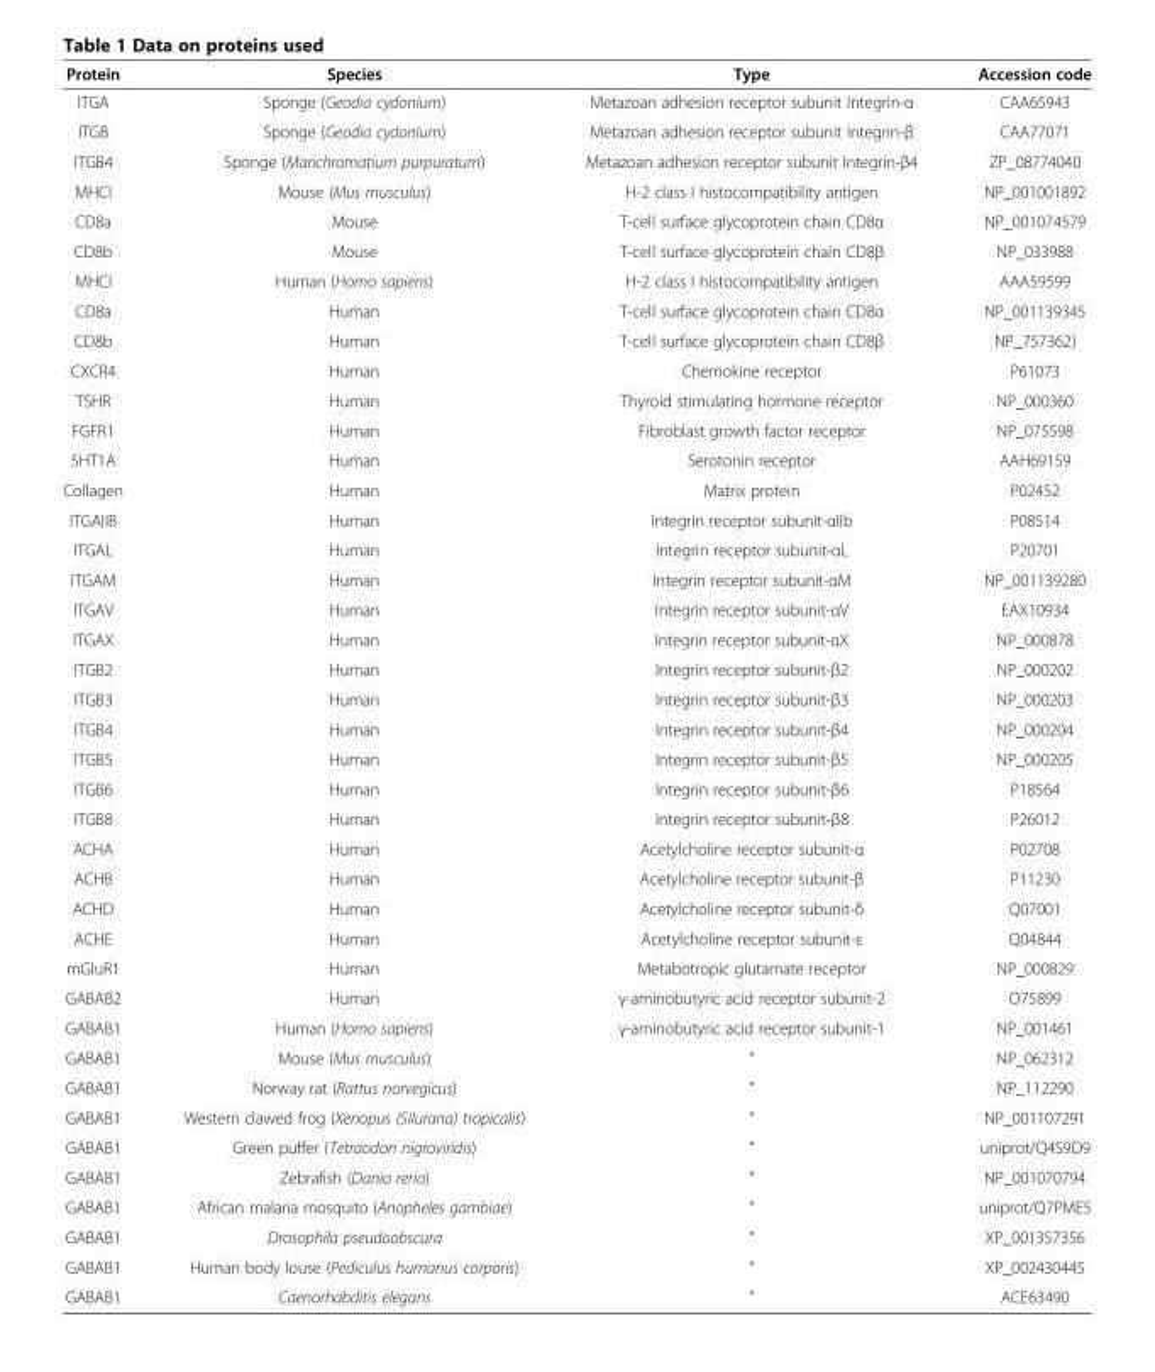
<table><thead><tr><td>Protein</td><td>Species</td><td>Type</td><td>Accession code</td></tr></thead><tbody><tr><td>ITGA</td><td>Sponge (Geodia cydonium)</td><td>Metazoan adhesion receptor subunit Integrin-α</td><td>CAA65943</td></tr><tr><td>ITGB</td><td>Sponge (Geodia cydonium)</td><td>Metazoan adhesion receptor subunit Integrin-β</td><td>CAA77071</td></tr><tr><td>ITGB4</td><td>Sponge (Marichromatium purpuratum)</td><td>Metazoan adhesion receptor subunit Integrin-β4</td><td>ZP_08774040</td></tr><tr><td>MHCI</td><td>Mouse (Mus musculus)</td><td>H-2 class I histocompatibility antigen</td><td>NP_001001892</td></tr><tr><td>CD8a</td><td>Mouse</td><td>T-cell surface glycoprotein chain CD8α</td><td>NP_001074579</td></tr><tr><td>CD8b</td><td>Mouse</td><td>T-cell surface glycoprotein chain CD8β</td><td>NP_033988</td></tr><tr><td>MHCI</td><td>Human (Homo sapiens)</td><td>H-2 class I histocompatibility antigen</td><td>AAA59599</td></tr><tr><td>CD8a</td><td>Human</td><td>T-cell surface glycoprotein chain CD8α</td><td>NP_001139345</td></tr><tr><td>CD8b</td><td>Human</td><td>T-cell surface glycoprotein chain CD8β</td><td>NP_757362)</td></tr><tr><td>CXCR4</td><td>Human</td><td>Chemokine receptor</td><td>P61073</td></tr><tr><td>TSHR</td><td>Human</td><td>Thyroid stimulating hormone receptor</td><td>NP_000360</td></tr><tr><td>FGFR1</td><td>Human</td><td>Fibroblast growth factor receptor</td><td>NP_075598</td></tr><tr><td>5HT1A</td><td>Human</td><td>Serotonin receptor</td><td>AAH69159</td></tr><tr><td>Collagen</td><td>Human</td><td>Matrix protein</td><td>P02452</td></tr><tr><td>ITGAIIB</td><td>Human</td><td>Integrin receptor subunit-αIIb</td><td>P08514</td></tr><tr><td>ITGAL</td><td>Human</td><td>Integrin receptor subunit-αL</td><td>P20701</td></tr><tr><td>ITGAM</td><td>Human</td><td>Integrin receptor subunit-αM</td><td>NP_001139280</td></tr><tr><td>ITGAV</td><td>Human</td><td>Integrin receptor subunit-αV</td><td>EAX10934</td></tr><tr><td>ITGAX</td><td>Human</td><td>Integrin receptor subunit-αX</td><td>NP_000878</td></tr><tr><td>ITGB2</td><td>Human</td><td>Integrin receptor subunit-β2</td><td>NP_000202</td></tr><tr><td>ITGB3</td><td>Human</td><td>Integrin receptor subunit-β3</td><td>NP_000203</td></tr><tr><td>ITGB4</td><td>Human</td><td>Integrin receptor subunit-β4</td><td>NP_000204</td></tr><tr><td>ITGB5</td><td>Human</td><td>Integrin receptor subunit-β5</td><td>NP_000205</td></tr><tr><td>ITGB6</td><td>Human</td><td>Integrin receptor subunit-β6</td><td>P18564</td></tr><tr><td>ITGB8</td><td>Human</td><td>Integrin receptor subunit-β8</td><td>P26012</td></tr><tr><td>ACHA</td><td>Human</td><td>Acetylcholine receptor subunit-α</td><td>P02708</td></tr><tr><td>ACHB</td><td>Human</td><td>Acetylcholine receptor subunit-β</td><td>P11230</td></tr><tr><td>ACHD</td><td>Human</td><td>Acetylcholine receptor subunit-δ</td><td>Q07001</td></tr><tr><td>ACHE</td><td>Human</td><td>Acetylcholine receptor subunit-ε</td><td>Q04844</td></tr><tr><td>mGluR1</td><td>Human</td><td>Metabotropic glutamate receptor</td><td>NP_000829</td></tr><tr><td>GABAB2</td><td>Human</td><td>γ-aminobutyric acid receptor subunit-2</td><td>O75899</td></tr><tr><td>GABAB1</td><td>Human (Homo sapiens)</td><td>γ-aminobutyric acid receptor subunit-1</td><td>NP_001461</td></tr><tr><td>GABAB1</td><td>Mouse (Mus musculus)</td><td>&quot;</td><td>NP_062312</td></tr><tr><td>GABAB1</td><td>Norway rat (Rattus norvegicus)</td><td>&quot;</td><td>NP_112290</td></tr><tr><td>GABAB1</td><td>Western clawed frog (Xenopus (Silurana) tropicalis)</td><td>&quot;</td><td>NP_001107291</td></tr><tr><td>GABAB1</td><td>Green puffer (Tetraodon nigroviridis)</td><td>&quot;</td><td>uniprot/Q4S9D9</td></tr><tr><td>GABAB1</td><td>Zebrafish (Danio rerio)</td><td>&quot;</td><td>NP_001070794</td></tr><tr><td>GABAB1</td><td>African malaria mosquito (Anopheles gambiae)</td><td>&quot;</td><td>uniprot/Q7PME5</td></tr><tr><td>GABAB1</td><td>Drosophila pseudoobscura</td><td>&quot;</td><td>XP_001357356</td></tr><tr><td>GABAB1</td><td>Human body louse (Pediculus humanus corporis)</td><td>&quot;</td><td>XP_002430445</td></tr><tr><td>GABAB1</td><td>Caenorhabditis elegans</td><td>&quot;</td><td>ACE63490</td></tr></tbody></table>